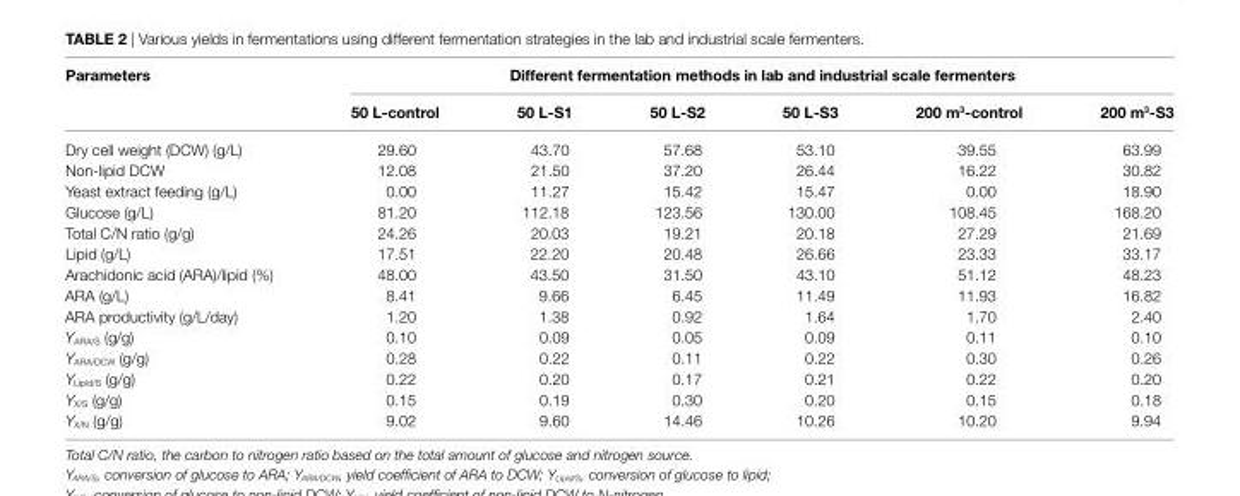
<table><thead><tr><td rowspan="2">Parameters</td><td colspan="6">Different fermentation methods in lab and industrial scale fermenters</td></tr><tr><td>50 l-control</td><td>50 l-s1</td><td>50 l-s2</td><td>50 l-s3</td><td>200 m<sup>3</sup>-control</td><td>200 m<sup>3</sup>-s3</td></tr></thead><tbody><tr><td>Dry cell weight (DCW) (g/L)</td><td>29.60</td><td>43.70</td><td>57.68</td><td>53.10</td><td>39.55</td><td>63.99</td></tr><tr><td>Non-lipid DCW</td><td>12.08</td><td>21.50</td><td>37.20</td><td>26.44</td><td>16.22</td><td>30.82</td></tr><tr><td>Yeast extract feeding (g/L)</td><td>0.00</td><td>11.27</td><td>15.42</td><td>15.47</td><td>0.00</td><td>18.90</td></tr><tr><td>Glucose (g/L)</td><td>81.20</td><td>112.18</td><td>123.56</td><td>130.00</td><td>108.45</td><td>168.20</td></tr><tr><td>Total C/N ratio (g/g)</td><td>24.26</td><td>20.03</td><td>19.21</td><td>20.18</td><td>27.29</td><td>21.69</td></tr><tr><td>Lipid (g/L)</td><td>17.51</td><td>22.20</td><td>20.48</td><td>26.66</td><td>23.33</td><td>33.17</td></tr><tr><td>Arachidonic acid (ARA)/lipid (%)</td><td>48.00</td><td>43.50</td><td>31.50</td><td>43.10</td><td>51.12</td><td>48.23</td></tr><tr><td>ARA (g/L)</td><td>8.41</td><td>9.66</td><td>6.45</td><td>11.49</td><td>11.93</td><td>16.82</td></tr><tr><td>ARA productivity (g/L/day)</td><td>1.20</td><td>1.38</td><td>0.92</td><td>1.64</td><td>1.70</td><td>2.40</td></tr><tr><td>Y<sub>ARA/S</sub> (g/g)</td><td>0.10</td><td>0.09</td><td>0.05</td><td>0.09</td><td>0.11</td><td>0.10</td></tr><tr><td>Y<sub>ARA/DCW</sub> (g/g)</td><td>0.28</td><td>0.22</td><td>0.11</td><td>0.22</td><td>0.30</td><td>0.26</td></tr><tr><td>Y<sub>Lipid/S</sub> (g/g)</td><td>0.22</td><td>0.20</td><td>0.17</td><td>0.21</td><td>0.22</td><td>0.20</td></tr><tr><td>Y<sub>X/S</sub> (g/g)</td><td>0.15</td><td>0.19</td><td>0.30</td><td>0.20</td><td>0.15</td><td>0.18</td></tr><tr><td>Y<sub>X/N</sub> (g/g)</td><td>9.02</td><td>9.60</td><td>14.46</td><td>10.26</td><td>10.20</td><td>9.94</td></tr></tbody></table>